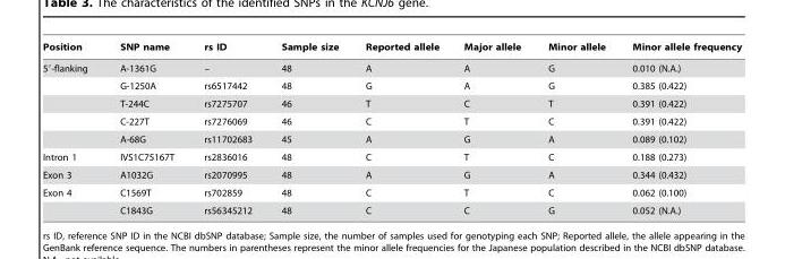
<table><thead><tr><td>Position</td><td>SNP name</td><td>rs ID</td><td>Sample size</td><td>Reported allele</td><td>Major allele</td><td>Minor allele</td><td>Minor allele frequency</td></tr></thead><tbody><tr><td rowspan="5">5′-flanking</td><td>A-1361G</td><td>–</td><td>48</td><td>A</td><td>A</td><td>G</td><td>0.010 (N.A.)</td></tr><tr><td>G-1250A</td><td>rs6517442</td><td>48</td><td>G</td><td>A</td><td>G</td><td>0.385 (0.422)</td></tr><tr><td>T-244C</td><td>rs7275707</td><td>46</td><td>T</td><td>C</td><td>T</td><td>0.391 (0.422)</td></tr><tr><td>C-227T</td><td>rs7276069</td><td>46</td><td>C</td><td>T</td><td>C</td><td>0.391 (0.422)</td></tr><tr><td>A-68G</td><td>rs11702683</td><td>45</td><td>A</td><td>G</td><td>A</td><td>0.089 (0.102)</td></tr><tr><td>Intron 1</td><td>IVS1C75167T</td><td>rs2836016</td><td>48</td><td>C</td><td>T</td><td>C</td><td>0.188 (0.273)</td></tr><tr><td>Exon 3</td><td>A1032G</td><td>rs2070995</td><td>48</td><td>A</td><td>G</td><td>A</td><td>0.344 (0.432)</td></tr><tr><td rowspan="2">Exon 4</td><td>C1569T</td><td>rs702859</td><td>48</td><td>C</td><td>T</td><td>C</td><td>0.062 (0.100)</td></tr><tr><td>C1843G</td><td>rs56345212</td><td>48</td><td>C</td><td>C</td><td>G</td><td>0.052 (N.A.)</td></tr></tbody></table>